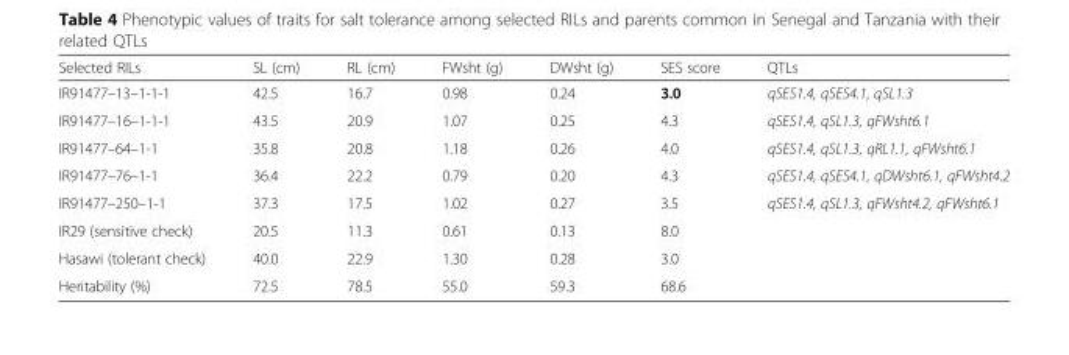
<table><thead><tr><td>Selected RILs</td><td>SL (cm)</td><td>RL (cm)</td><td>FWsht (g)</td><td>DWsht (g)</td><td>SES score</td><td>QTLs</td></tr></thead><tbody><tr><td>IR91477–13–1-1-1</td><td>42.5</td><td>16.7</td><td>0.98</td><td>0.24</td><td>3.0</td><td>qSES1.4, qSES4.1, qSL1.3</td></tr><tr><td>IR91477–16–1-1-1</td><td>43.5</td><td>20.9</td><td>1.07</td><td>0.25</td><td>4.3</td><td>qSES1.4, qSL1.3, qFWsht6.1</td></tr><tr><td>IR91477–64–1-1</td><td>35.8</td><td>20.8</td><td>1.18</td><td>0.26</td><td>4.0</td><td>qSES1.4, qSL1.3, qRL1.1, qFWsht6.1</td></tr><tr><td>IR91477–76–1-1</td><td>36.4</td><td>22.2</td><td>0.79</td><td>0.20</td><td>4.3</td><td>qSES1.4, qSES4.1, qDWsht6.1, qFWsht4.2</td></tr><tr><td>IR91477–250–1-1</td><td>37.3</td><td>17.5</td><td>1.02</td><td>0.27</td><td>3.5</td><td>qSES1.4, qSL1.3, qFWsht4.2, qFWsht6.1</td></tr><tr><td>IR29 (sensitive check)</td><td>20.5</td><td>11.3</td><td>0.61</td><td>0.13</td><td>8.0</td><td></td></tr><tr><td>Hasawi (tolerant check)</td><td>40.0</td><td>22.9</td><td>1.30</td><td>0.28</td><td>3.0</td><td></td></tr><tr><td>Heritability (%)</td><td>72.5</td><td>78.5</td><td>55.0</td><td>59.3</td><td>68.6</td><td></td></tr></tbody></table>